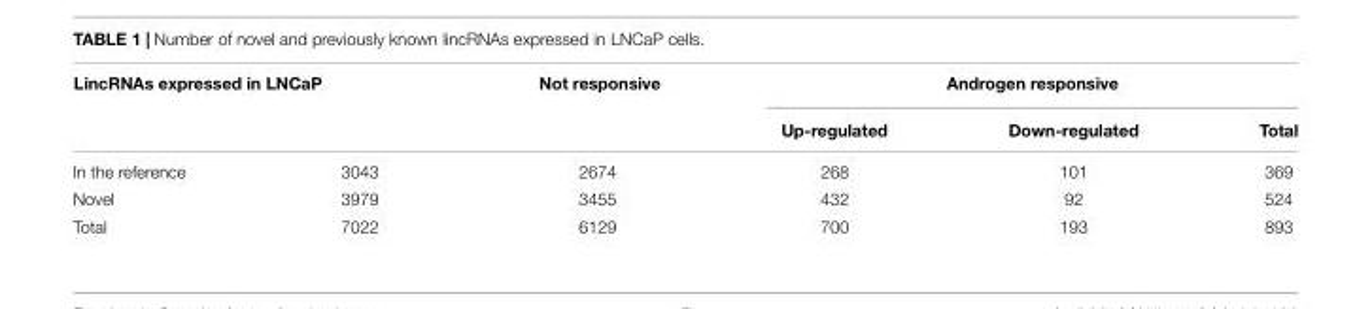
<table><thead><tr><td colspan="2">LincRNAs expressed in LNCaP</td><td rowspan="2">Not responsive</td><td colspan="3">Androgen responsive</td></tr><tr><td></td><td></td><td>Up-regulated</td><td>Down-regulated</td><td>Total</td></tr></thead><tbody><tr><td>In the reference</td><td>3043</td><td>2674</td><td>268</td><td>101</td><td>369</td></tr><tr><td>Novel</td><td>3979</td><td>3455</td><td>432</td><td>92</td><td>524</td></tr><tr><td>Total</td><td>7022</td><td>6129</td><td>700</td><td>193</td><td>893</td></tr></tbody></table>